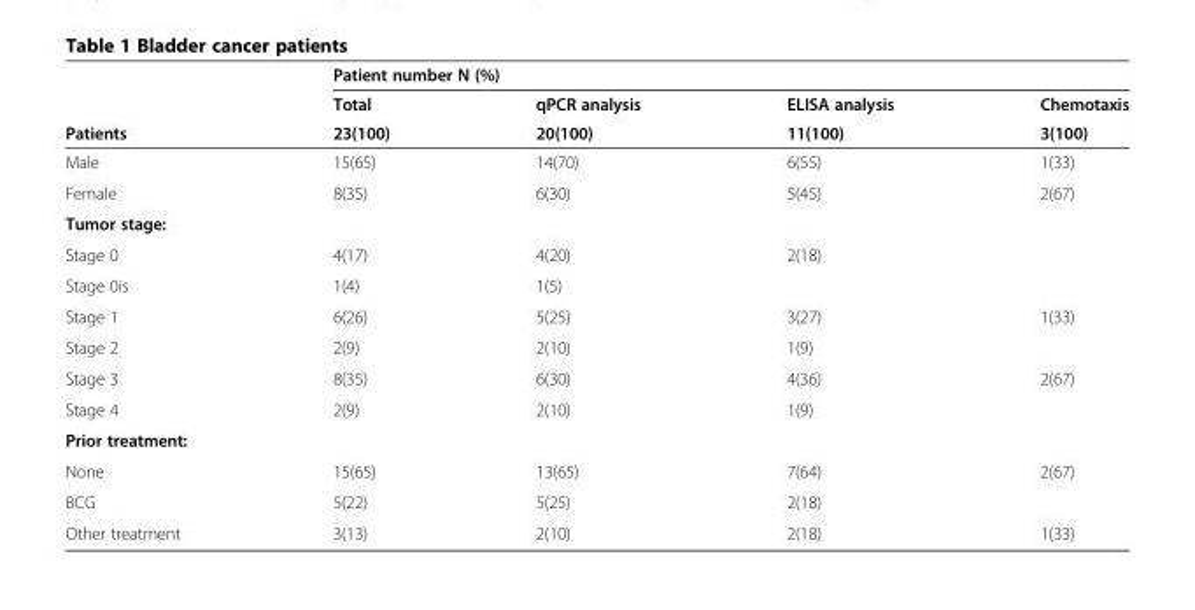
<table><thead><tr><td rowspan="3">Patients</td><td colspan="4">Patient number N (%)</td></tr><tr><td rowspan="2">Total 23(100)</td><td rowspan="2">qPCR analysis 20(100)</td><td rowspan="2">ELISA analysis 11(100)</td><td rowspan="2">Chemotaxis 3(100)</td></tr><tr></tr></thead><tbody><tr><td>Male</td><td>15(65)</td><td>14(70)</td><td>6(55)</td><td>1(33)</td></tr><tr><td>Female</td><td>8(35)</td><td>6(30)</td><td>5(45)</td><td>2(67)</td></tr><tr><td colspan="5">Tumor stage:</td></tr><tr><td>Stage 0</td><td>4(17)</td><td>4(20)</td><td>2(18)</td><td></td></tr><tr><td>Stage 0is</td><td>1(4)</td><td>1(5)</td><td></td><td></td></tr><tr><td>Stage 1</td><td>6(26)</td><td>5(25)</td><td>3(27)</td><td>1(33)</td></tr><tr><td>Stage 2</td><td>2(9)</td><td>2(10)</td><td>1(9)</td><td></td></tr><tr><td>Stage 3</td><td>8(35)</td><td>6(30)</td><td>4(36)</td><td>2(67)</td></tr><tr><td>Stage 4</td><td>2(9)</td><td>2(10)</td><td>1(9)</td><td></td></tr><tr><td colspan="5">Prior treatment:</td></tr><tr><td>None</td><td>15(65)</td><td>13(65)</td><td>7(64)</td><td>2(67)</td></tr><tr><td>BCG</td><td>5(22)</td><td>5(25)</td><td>2(18)</td><td></td></tr><tr><td>Other treatment</td><td>3(13)</td><td>2(10)</td><td>2(18)</td><td>1(33)</td></tr></tbody></table>